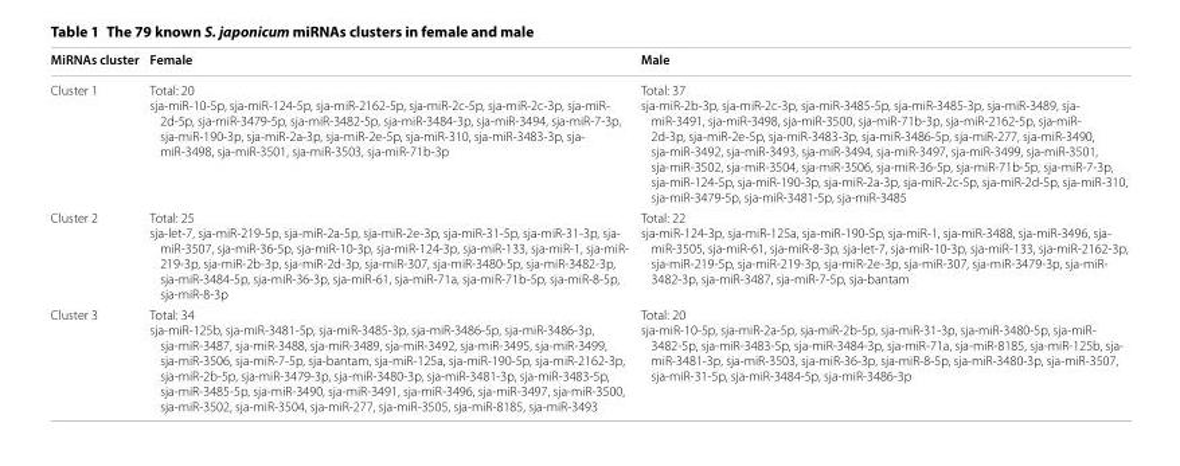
<table><thead><tr><td>MiRNAs cluster</td><td>Female</td><td>Male</td></tr></thead><tbody><tr><td>Cluster 1</td><td>Total: 20 sja-miR-10-5p, sja-miR-124-5p, sja-miR-2162-5p, sja-miR-2c-5p, sja-miR-2c-3p, sja-miR- 2d-5p, sja-miR-3479-5p, sja-miR-3482-5p, sja-miR-3484-3p, sja-miR-3494, sja-miR-7-3p, sja-miR-190-3p, sja-miR-2a-3p, sja-miR-2e-5p, sja-miR-310, sja-miR-3483-3p, sja- miR-3498, sja-miR-3501, sja-miR-3503, sja-miR-71b-3p</td><td>Total: 37 sja-miR-2b-3p, sja-miR-2c-3p, sja-miR-3485-5p, sja-miR-3485-3p, sja-miR-3489, sja- miR-3491, sja-miR-3498, sja-miR-3500, sja-miR-71b-3p, sja-miR-2162-5p, sja-miR- 2d-3p, sja-miR-2e-5p, sja-miR-3483-3p, sja-miR-3486-5p, sja-miR-277, sja-miR-3490, sja-miR-3492, sja-miR-3493, sja-miR-3494, sja-miR-3497, sja-miR-3499, sja-miR-3501, sja-miR-3502, sja-miR-3504, sja-miR-3506, sja-miR-36-5p, sja-miR-71b-5p, sja-miR-7-3p, sja-miR-124-5p, sja-miR-190-3p, sja-miR-2a-3p, sja-miR-2c-5p, sja-miR-2d-5p, sja-miR-310, sja-miR-3479-5p, sja-miR-3481-5p, sja-miR-3485</td></tr><tr><td>Cluster 2</td><td>Total: 25 sja-let-7, sja-miR-219-5p, sja-miR-2a-5p, sja-miR-2e-3p, sja-miR-31-5p, sja-miR-31-3p, sja- miR-3507, sja-miR-36-5p, sja-miR-10-3p, sja-miR-124-3p, sja-miR-133, sja-miR-1, sja-miR- 219-3p, sja-miR-2b-3p, sja-miR-2d-3p, sja-miR-307, sja-miR-3480-5p, sja-miR-3482-3p, sja-miR-3484-5p, sja-miR-36-3p, sja-miR-61, sja-miR-71a, sja-miR-71b-5p, sja-miR-8-5p, sja-miR-8-3p</td><td>Total: 22 sja-miR-124-3p, sja-miR-125a, sja-miR-190-5p, sja-miR-1, sja-miR-3488, sja-miR-3496, sja- miR-3505, sja-miR-61, sja-miR-8-3p, sja-let-7, sja-miR-10-3p, sja-miR-133, sja-miR-2162-3p, sja-miR-219-5p, sja-miR-219-3p, sja-miR-2e-3p, sja-miR-307, sja-miR-3479-3p, sja-miR- 3482-3p, sja-miR-3487, sja-miR-7-5p, sja-bantam</td></tr><tr><td>Cluster 3</td><td>Total: 34 sja-miR-125b, sja-miR-3481-5p, sja-miR-3485-3p, sja-miR-3486-5p, sja-miR-3486-3p, sja-miR-3487, sja-miR-3488, sja-miR-3489, sja-miR-3492, sja-miR-3495, sja-miR-3499, sja-miR-3506, sja-miR-7-5p, sja-bantam, sja-miR-125a, sja-miR-190-5p, sja-miR-2162-3p, sja-miR-2b-5p, sja-miR-3479-3p, sja-miR-3480-3p, sja-miR-3481-3p, sja-miR-3483-5p, sja-miR-3485-5p, sja-miR-3490, sja-miR-3491, sja-miR-3496, sja-miR-3497, sja-miR-3500, sja-miR-3502, sja-miR-3504, sja-miR-277, sja-miR-3505, sja-miR-8185, sja-miR-3493</td><td>Total: 20 sja-miR-10-5p, sja-miR-2a-5p, sja-miR-2b-5p, sja-miR-31-3p, sja-miR-3480-5p, sja-miR- 3482-5p, sja-miR-3483-5p, sja-miR-3484-3p, sja-miR-71a, sja-miR-8185, sja-miR-125b, sja- miR-3481-3p, sja-miR-3503, sja-miR-36-3p, sja-miR-8-5p, sja-miR-3480-3p, sja-miR-3507, sja-miR-31-5p, sja-miR-3484-5p, sja-miR-3486-3p</td></tr></tbody></table>